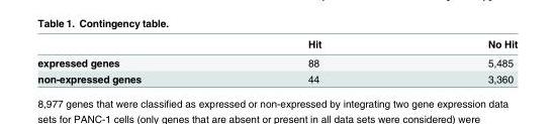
<table><thead><tr><td></td><td>Hit</td><td>No Hit</td></tr></thead><tbody><tr><td>expressed genes</td><td>88</td><td>5,485</td></tr><tr><td>non-expressed genes</td><td>44</td><td>3,360</td></tr></tbody></table>